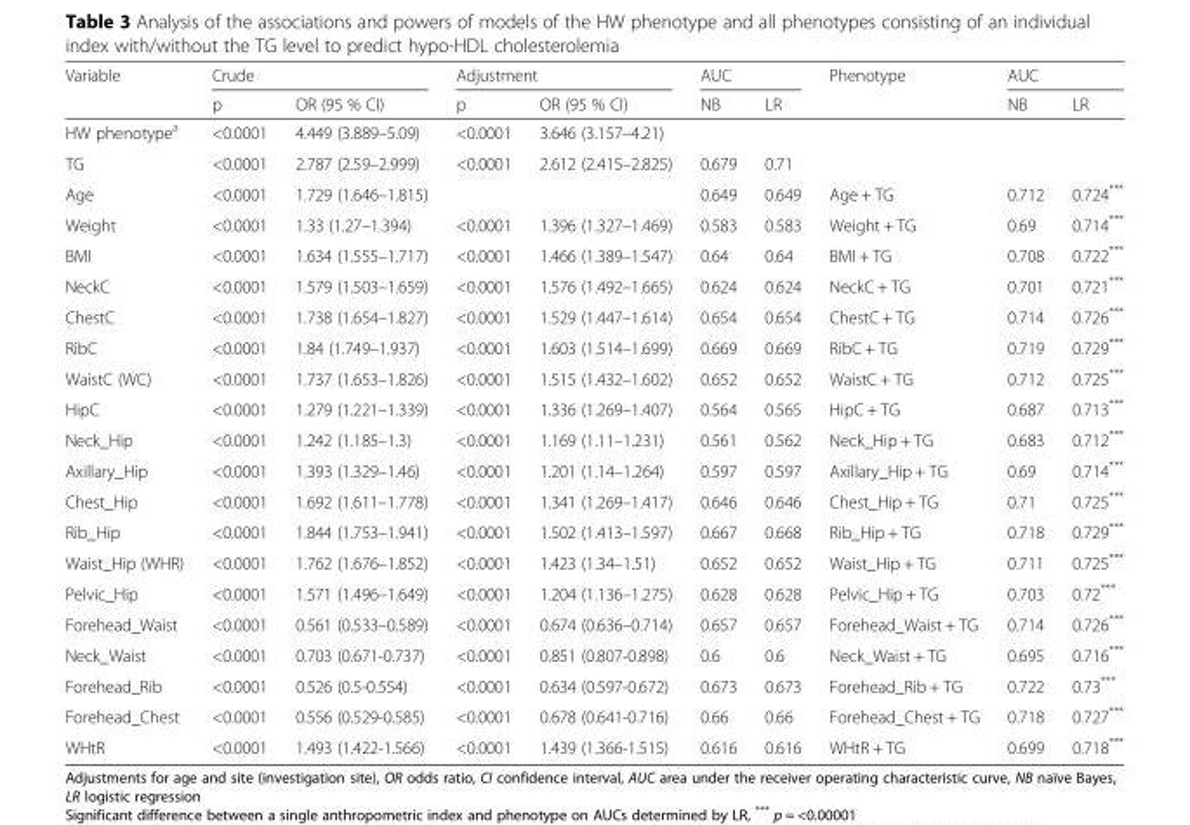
<table><thead><tr><td rowspan="2">Variable</td><td colspan="2">Crude</td><td colspan="2">Adjustment</td><td colspan="2">AUC</td><td rowspan="2">Phenotype</td><td colspan="2">AUC</td></tr><tr><td>p</td><td>OR (95 % CI)</td><td>p</td><td>OR (95 % CI)</td><td>NB</td><td>LR</td><td>NB</td><td>LR</td></tr></thead><tbody><tr><td>HW phenotype<sup>a</sup></td><td>&lt;0.0001</td><td>4.449 (3.889–5.09)</td><td>&lt;0.0001</td><td>3.646 (3.157–4.21)</td><td></td><td></td><td></td><td></td><td></td></tr><tr><td>TG</td><td>&lt;0.0001</td><td>2.787 (2.59–2.999)</td><td>&lt;0.0001</td><td>2.612 (2.415–2.825)</td><td>0.679</td><td>0.71</td><td></td><td></td><td></td></tr><tr><td>Age</td><td>&lt;0.0001</td><td>1.729 (1.646–1.815)</td><td></td><td></td><td>0.649</td><td>0.649</td><td>Age + TG</td><td>0.712</td><td>0.724***</td></tr><tr><td>Weight</td><td>&lt;0.0001</td><td>1.33 (1.27–1.394)</td><td>&lt;0.0001</td><td>1.396 (1.327–1.469)</td><td>0.583</td><td>0.583</td><td>Weight + TG</td><td>0.69</td><td>0.714***</td></tr><tr><td>BMI</td><td>&lt;0.0001</td><td>1.634 (1.555–1.717)</td><td>&lt;0.0001</td><td>1.466 (1.389–1.547)</td><td>0.64</td><td>0.64</td><td>BMI + TG</td><td>0.708</td><td>0.722***</td></tr><tr><td>NeckC</td><td>&lt;0.0001</td><td>1.579 (1.503–1.659)</td><td>&lt;0.0001</td><td>1.576 (1.492–1.665)</td><td>0.624</td><td>0.624</td><td>NeckC + TG</td><td>0.701</td><td>0.721***</td></tr><tr><td>ChestC</td><td>&lt;0.0001</td><td>1.738 (1.654–1.827)</td><td>&lt;0.0001</td><td>1.529 (1.447–1.614)</td><td>0.654</td><td>0.654</td><td>ChestC + TG</td><td>0.714</td><td>0.726***</td></tr><tr><td>RibC</td><td>&lt;0.0001</td><td>1.84 (1.749–1.937)</td><td>&lt;0.0001</td><td>1.603 (1.514–1.699)</td><td>0.669</td><td>0.669</td><td>RibC + TG</td><td>0.719</td><td>0.729***</td></tr><tr><td>WaistC (WC)</td><td>&lt;0.0001</td><td>1.737 (1.653–1.826)</td><td>&lt;0.0001</td><td>1.515 (1.432–1.602)</td><td>0.652</td><td>0.652</td><td>WaistC + TG</td><td>0.712</td><td>0.725***</td></tr><tr><td>HipC</td><td>&lt;0.0001</td><td>1.279 (1.221–1.339)</td><td>&lt;0.0001</td><td>1.336 (1.269–1.407)</td><td>0.564</td><td>0.565</td><td>HipC + TG</td><td>0.687</td><td>0.713***</td></tr><tr><td>Neck_Hip</td><td>&lt;0.0001</td><td>1.242 (1.185–1.3)</td><td>&lt;0.0001</td><td>1.169 (1.11–1.231)</td><td>0.561</td><td>0.562</td><td>Neck_Hip + TG</td><td>0.683</td><td>0.712***</td></tr><tr><td>Axillary_Hip</td><td>&lt;0.0001</td><td>1.393 (1.329–1.46)</td><td>&lt;0.0001</td><td>1.201 (1.14–1.264)</td><td>0.597</td><td>0.597</td><td>Axillary_Hip + TG</td><td>0.69</td><td>0.714***</td></tr><tr><td>Chest_Hip</td><td>&lt;0.0001</td><td>1.692 (1.611–1.778)</td><td>&lt;0.0001</td><td>1.341 (1.269–1.417)</td><td>0.646</td><td>0.646</td><td>Chest_Hip + TG</td><td>0.71</td><td>0.725***</td></tr><tr><td>Rib_Hip</td><td>&lt;0.0001</td><td>1.844 (1.753–1.941)</td><td>&lt;0.0001</td><td>1.502 (1.413–1.597)</td><td>0.667</td><td>0.668</td><td>Rib_Hip + TG</td><td>0.718</td><td>0.729***</td></tr><tr><td>Waist_Hip (WHR)</td><td>&lt;0.0001</td><td>1.762 (1.676–1.852)</td><td>&lt;0.0001</td><td>1.423 (1.34–1.51)</td><td>0.652</td><td>0.652</td><td>Waist_Hip + TG</td><td>0.711</td><td>0.725***</td></tr><tr><td>Pelvic_Hip</td><td>&lt;0.0001</td><td>1.571 (1.496–1.649)</td><td>&lt;0.0001</td><td>1.204 (1.136–1.275)</td><td>0.628</td><td>0.628</td><td>Pelvic_Hip + TG</td><td>0.703</td><td>0.72***</td></tr><tr><td>Forehead_Waist</td><td>&lt;0.0001</td><td>0.561 (0.533–0.589)</td><td>&lt;0.0001</td><td>0.674 (0.636–0.714)</td><td>0.657</td><td>0.657</td><td>Forehead_Waist + TG</td><td>0.714</td><td>0.726***</td></tr><tr><td>Neck_Waist</td><td>&lt;0.0001</td><td>0.703 (0.671-0.737)</td><td>&lt;0.0001</td><td>0.851 (0.807-0.898)</td><td>0.6</td><td>0.6</td><td>Neck_Waist + TG</td><td>0.695</td><td>0.716***</td></tr><tr><td>Forehead_Rib</td><td>&lt;0.0001</td><td>0.526 (0.5-0.554)</td><td>&lt;0.0001</td><td>0.634 (0.597-0.672)</td><td>0.673</td><td>0.673</td><td>Forehead_Rib + TG</td><td>0.722</td><td>0.73***</td></tr><tr><td>Forehead_Chest</td><td>&lt;0.0001</td><td>0.556 (0.529-0.585)</td><td>&lt;0.0001</td><td>0.678 (0.641-0.716)</td><td>0.66</td><td>0.66</td><td>Forehead_Chest + TG</td><td>0.718</td><td>0.727***</td></tr><tr><td>WHtR</td><td>&lt;0.0001</td><td>1.493 (1.422-1.566)</td><td>&lt;0.0001</td><td>1.439 (1.366-1.515)</td><td>0.616</td><td>0.616</td><td>WHtR + TG</td><td>0.699</td><td>0.718***</td></tr></tbody></table>